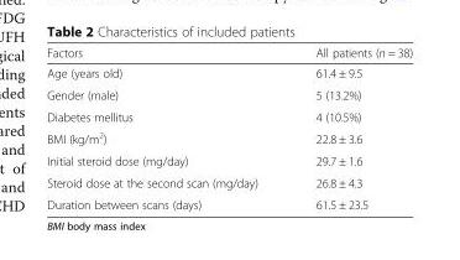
<table><thead><tr><td>Factors</td><td>All patients (n = 38)</td></tr></thead><tbody><tr><td>Age (years old)</td><td>61.4 ± 9.5</td></tr><tr><td>Gender (male)</td><td>5 (13.2%)</td></tr><tr><td>Diabetes mellitus</td><td>4 (10.5%)</td></tr><tr><td>BMI (kg/m<sup>2</sup>)</td><td>22.8 ± 3.6</td></tr><tr><td>Initial steroid dose (mg/day)</td><td>29.7 ± 1.6</td></tr><tr><td>Steroid dose at the second scan (mg/day)</td><td>26.8 ± 4.3</td></tr><tr><td>Duration between scans (days)</td><td>61.5 ± 23.5</td></tr></tbody></table>